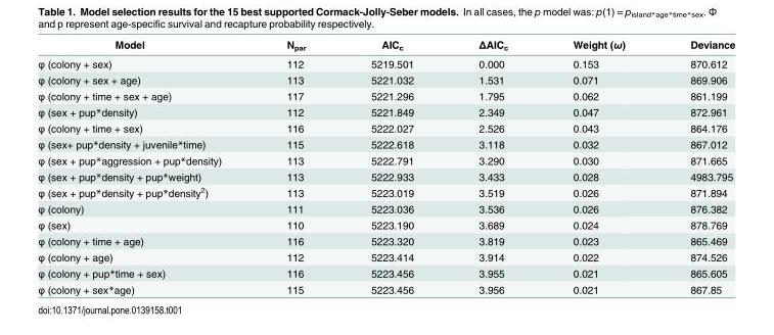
<table><thead><tr><td>Model</td><td>N<sub>par</sub></td><td>AIC<sub>c</sub></td><td>ΔAICc</td><td>Weight (ω)</td><td>Deviance</td></tr></thead><tbody><tr><td>φ (colony + sex)</td><td>112</td><td>5219.501</td><td>0.000</td><td>0.153</td><td>870.612</td></tr><tr><td>φ (colony + sex + age)</td><td>113</td><td>5221.032</td><td>1.531</td><td>0.071</td><td>869.906</td></tr><tr><td>φ (colony + time + sex + age)</td><td>117</td><td>5221.296</td><td>1.795</td><td>0.062</td><td>861.199</td></tr><tr><td>φ (sex + pup*density)</td><td>112</td><td>5221.849</td><td>2.349</td><td>0.047</td><td>872.961</td></tr><tr><td>φ (colony + time + sex)</td><td>116</td><td>5222.027</td><td>2.526</td><td>0.043</td><td>864.176</td></tr><tr><td>φ (sex+ pup*density + juvenile*time)</td><td>115</td><td>5222.618</td><td>3.118</td><td>0.032</td><td>867.012</td></tr><tr><td>φ (sex + pup*aggression + pup*density)</td><td>113</td><td>5222.791</td><td>3.290</td><td>0.030</td><td>871.665</td></tr><tr><td>φ (sex + pup*density + pup*weight)</td><td>113</td><td>5222.933</td><td>3.433</td><td>0.028</td><td>4983.795</td></tr><tr><td>φ (sex + pup*density + pup*density<sup>2</sup>)</td><td>113</td><td>5223.019</td><td>3.519</td><td>0.026</td><td>871.894</td></tr><tr><td>φ (colony)</td><td>111</td><td>5223.036</td><td>3.536</td><td>0.026</td><td>876.382</td></tr><tr><td>φ (sex)</td><td>110</td><td>5223.190</td><td>3.689</td><td>0.024</td><td>878.769</td></tr><tr><td>φ (colony + time + age)</td><td>116</td><td>5223.320</td><td>3.819</td><td>0.023</td><td>865.469</td></tr><tr><td>φ (colony + age)</td><td>112</td><td>5223.414</td><td>3.914</td><td>0.022</td><td>874.526</td></tr><tr><td>φ (colony + pup*time + sex)</td><td>116</td><td>5223.456</td><td>3.955</td><td>0.021</td><td>865.605</td></tr><tr><td>φ (colony + sex*age)</td><td>115</td><td>5223.456</td><td>3.956</td><td>0.021</td><td>867.85</td></tr></tbody></table>